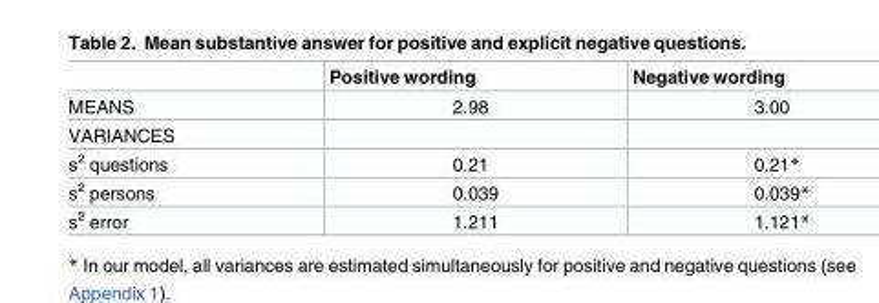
<table><thead><tr><td></td><td>Positive wording</td><td>Negative wording</td></tr></thead><tbody><tr><td>MEANS</td><td>2.98</td><td>3.00</td></tr><tr><td colspan="3">VARIANCES</td></tr><tr><td>s<sup>2</sup> questions</td><td>0.21</td><td>0.21*</td></tr><tr><td>s<sup>2</sup> persons</td><td>0.039</td><td>0.039*</td></tr><tr><td>s<sup>2</sup> error</td><td>1.211</td><td>1.121*</td></tr></tbody></table>